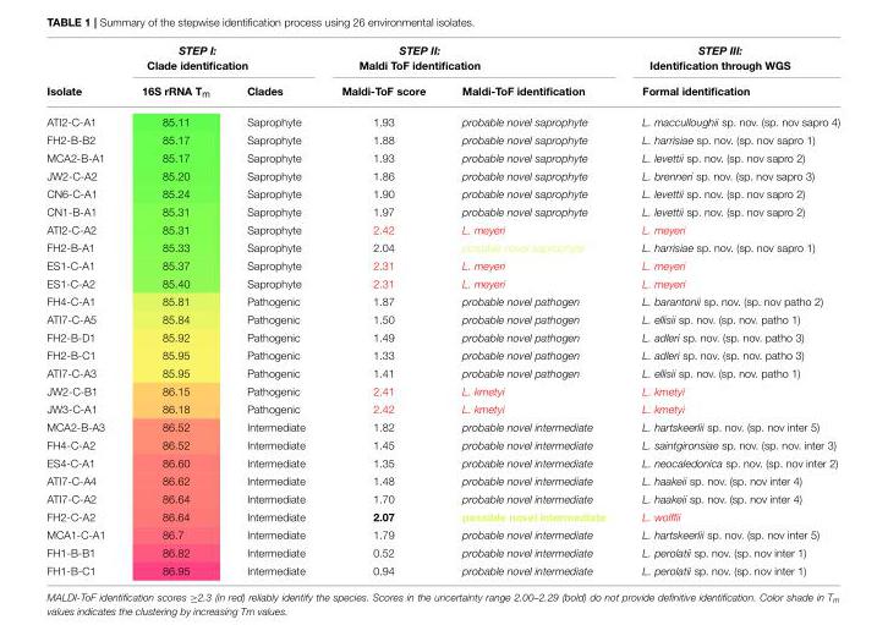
<table><thead><tr><td rowspan="2">Isolate</td><td colspan="2">STEP I: Clade identification</td><td colspan="2">STEP II: Maldi ToF identification</td><td rowspan="2">STEP III: Identification through WGS Formal identification</td></tr><tr><td>16S rRNA T<sub>m</sub></td><td>Clades</td><td>Maldi-ToF score</td><td>Maldi-ToF identification</td></tr></thead><tbody><tr><td>ATI2-C-A1</td><td>85.11</td><td>Saprophyte</td><td>1.93</td><td>probable novel saprophyte</td><td>L. macculloughii sp. nov. (sp. nov sapro 4)</td></tr><tr><td>FH2-B-B2</td><td>85.17</td><td>Saprophyte</td><td>1.88</td><td>probable novel saprophyte</td><td>L. harrisiae sp. nov. (sp. nov sapro 1)</td></tr><tr><td>MCA2-B-A1</td><td>85.17</td><td>Saprophyte</td><td>1.93</td><td>probable novel saprophyte</td><td>L. levettii sp. nov. (sp. nov sapro 2)</td></tr><tr><td>JW2-C-A2</td><td>85.20</td><td>Saprophyte</td><td>1.86</td><td>probable novel saprophyte</td><td>L. brenneri sp. nov. (sp. nov sapro 3)</td></tr><tr><td>CN6-C-A1</td><td>85.24</td><td>Saprophyte</td><td>1.90</td><td>probable novel saprophyte</td><td>L. levettii sp. nov. (sp. nov sapro 2)</td></tr><tr><td>CN1-B-A1</td><td>85.31</td><td>Saprophyte</td><td>1.97</td><td>probable novel saprophyte</td><td>L. levettii sp. nov. (sp. nov sapro 2)</td></tr><tr><td>ATI2-C-A2</td><td>85.31</td><td>Saprophyte</td><td>2.42</td><td>L. meyeri</td><td>L. meyeri</td></tr><tr><td>FH2-B-A1</td><td>85.33</td><td>Saprophyte</td><td>2.04</td><td>possible novel saprophyte</td><td>L. harrisiae sp. nov. (sp. nov sapro 1)</td></tr><tr><td>ES1-C-A1</td><td>85.37</td><td>Saprophyte</td><td>2.31</td><td>L. meyeri</td><td>L. meyeri</td></tr><tr><td>ES1-C-A2</td><td>85.40</td><td>Saprophyte</td><td>2.31</td><td>L. meyeri</td><td>L. meyeri</td></tr><tr><td>FH4-C-A1</td><td>85.81</td><td>Pathogenic</td><td>1.87</td><td>probable novel pathogen</td><td>L. barantonii sp. nov. (sp. nov patho 2)</td></tr><tr><td>ATI7-C-A5</td><td>85.84</td><td>Pathogenic</td><td>1.50</td><td>probable novel pathogen</td><td>L. ellisii sp. nov. (sp. nov. patho 1)</td></tr><tr><td>FH2-B-D1</td><td>85.92</td><td>Pathogenic</td><td>1.49</td><td>probable novel pathogen</td><td>L. adleri sp. nov. (sp. nov. patho 3)</td></tr><tr><td>FH2-B-C1</td><td>85.95</td><td>Pathogenic</td><td>1.33</td><td>probable novel pathogen</td><td>L. adleri sp. nov. (sp. nov. patho 3)</td></tr><tr><td>ATI7-C-A3</td><td>85.95</td><td>Pathogenic</td><td>1.41</td><td>probable novel pathogen</td><td>L. ellisii sp. nov. (sp. nov. patho 1)</td></tr><tr><td>JW2-C-B1</td><td>86.15</td><td>Pathogenic</td><td>2.41</td><td>L. kmetyi</td><td>L. kmetyi</td></tr><tr><td>JW3-C-A1</td><td>86.18</td><td>Pathogenic</td><td>2.42</td><td>L. kmetyi</td><td>L. kmetyi</td></tr><tr><td>MCA2-B-A3</td><td>86.52</td><td>Intermediate</td><td>1.82</td><td>probable novel intermediate</td><td>L. hartskeerlii sp. nov. (sp. nov inter 5)</td></tr><tr><td>FH4-C-A2</td><td>86.52</td><td>Intermediate</td><td>1.45</td><td>probable novel intermediate</td><td>L. saintgironsiae sp. nov. (sp. nov. inter 3)</td></tr><tr><td>ES4-C-A1</td><td>86.60</td><td>Intermediate</td><td>1.35</td><td>probable novel intermediate</td><td>L. neocaledonica sp. nov. (sp. nov inter 2)</td></tr><tr><td>ATI7-C-A4</td><td>86.62</td><td>Intermediate</td><td>1.48</td><td>probable novel intermediate</td><td>L. haakeii sp. nov. (sp. nov inter 4)</td></tr><tr><td>ATI7-C-A2</td><td>86.64</td><td>Intermediate</td><td>1.70</td><td>probable novel intermediate</td><td>L. haakeii sp. nov. (sp. nov inter 4)</td></tr><tr><td>FH2-C-A2</td><td>86.64</td><td>Intermediate</td><td>2.07</td><td>possible novel intermediate</td><td>L. wolffii</td></tr><tr><td>MCA1-C-A1</td><td>86.7</td><td>Intermediate</td><td>1.79</td><td>probable novel intermediate</td><td>L. hartskeerlii sp. nov. (sp. nov inter 5)</td></tr><tr><td>FH1-B-B1</td><td>86.82</td><td>Intermediate</td><td>0.52</td><td>probable novel intermediate</td><td>L. perolatii sp. nov. (sp. nov inter 1)</td></tr><tr><td>FH1-B-C1</td><td>86.95</td><td>Intermediate</td><td>0.94</td><td>probable novel intermediate</td><td>L. perolatii sp. nov. (sp. nov inter 1)</td></tr></tbody></table>